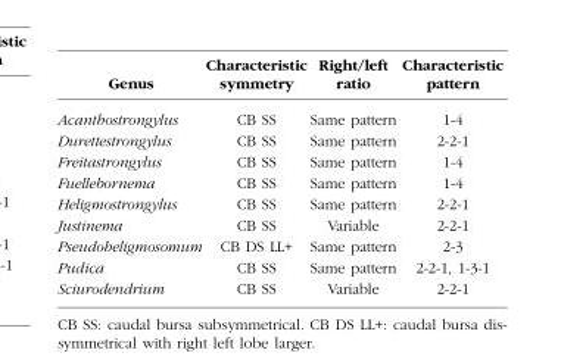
<table><thead><tr><td>Genus</td><td>Characteristic symmetry</td><td>Right/left ratio</td><td>Characteristic pattern</td></tr></thead><tbody><tr><td>Acanthostrongylus</td><td>CB SS</td><td>Same pattern</td><td>1-4</td></tr><tr><td>Durettestrongylus</td><td>CB SS</td><td>Same pattern</td><td>2-2-1</td></tr><tr><td>Freitastrongylus</td><td>CB SS</td><td>Same pattern</td><td>1-4</td></tr><tr><td>Fuellebornema</td><td>CB SS</td><td>Same pattern</td><td>1-4</td></tr><tr><td>Heligmostrongylus</td><td>CB SS</td><td>Same pattern</td><td>2-2-1</td></tr><tr><td>Justinema</td><td>CB SS</td><td>Variable</td><td>2-2-1</td></tr><tr><td>Pseudoheligmosomum</td><td>CB DS LL+</td><td>Same pattern</td><td>2-3</td></tr><tr><td>Pudica</td><td>CB SS</td><td>Same pattern</td><td>2-2-1, 1-3-1</td></tr><tr><td>Sciurodendrium</td><td>CB SS</td><td>Variable</td><td>2-2-1</td></tr></tbody></table>